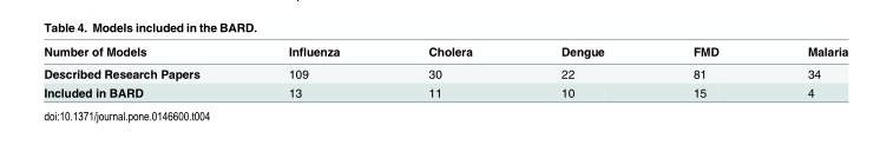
<table><thead><tr><td>Number of Models</td><td>Influenza</td><td>Cholera</td><td>Dengue</td><td>FMD</td><td>Malaria</td></tr></thead><tbody><tr><td>Described Research Papers</td><td>109</td><td>30</td><td>22</td><td>81</td><td>34</td></tr><tr><td>Included in BARD</td><td>13</td><td>11</td><td>10</td><td>15</td><td>4</td></tr></tbody></table>